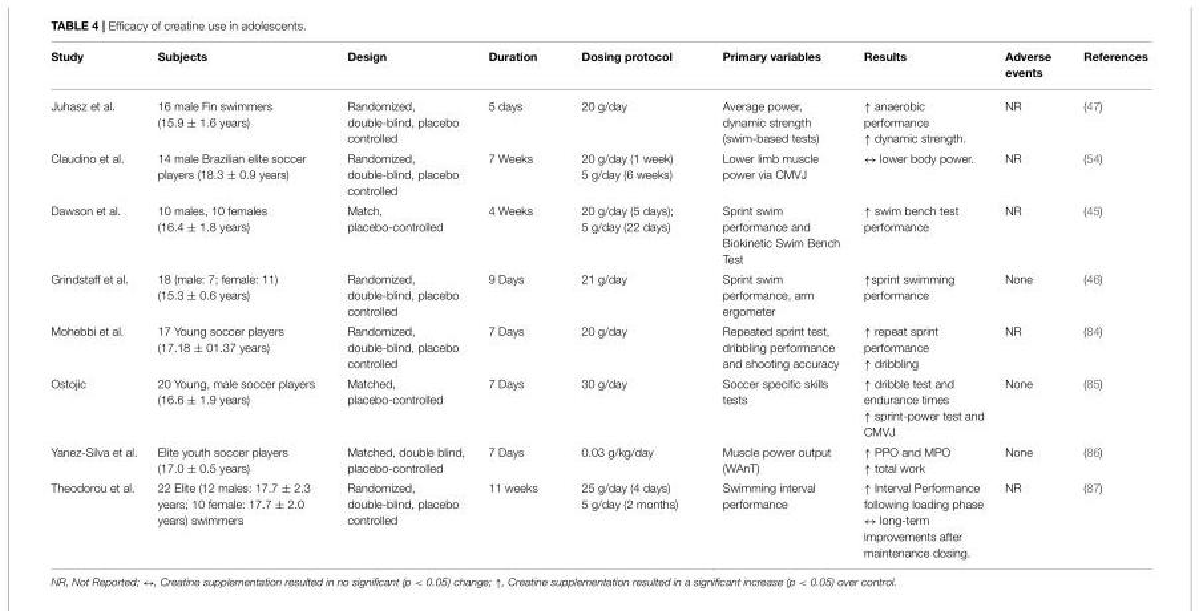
<table><thead><tr><td>Study</td><td>Subjects</td><td>Design</td><td>Duration</td><td>Dosing protocol</td><td>Primary variables</td><td>Results</td><td>Adverse events</td><td>References</td></tr></thead><tbody><tr><td>Juhasz et al.</td><td>16 male Fin swimmers (15.9 ± 1.6 years)</td><td>Randomized, double-blind, placebo controlled</td><td>5 days</td><td>20 g/day</td><td>Average power, dynamic strength (swim-based tests)</td><td>↑ anaerobic performance ↑ dynamic strength.</td><td>NR</td><td>(47)</td></tr><tr><td>Claudino et al.</td><td>14 male Brazilian elite soccer players (18.3 ± 0.9 years)</td><td>Randomized, double-blind, placebo controlled</td><td>7 Weeks</td><td>20 g/day (1 week) 5 g/day (6 weeks)</td><td>Lower limb muscle power via CMVJ</td><td>↔ lower body power.</td><td>NR</td><td>(54)</td></tr><tr><td>Dawson et al.</td><td>10 males, 10 females (16.4 ± 1.8 years)</td><td>Match, placebo-controlled</td><td>4 Weeks</td><td>20 g/day (5 days); 5 g/day (22 days)</td><td>Sprint swim performance and Biokinetic Swim Bench Test</td><td>↑ swim bench test performance</td><td>NR</td><td>(45)</td></tr><tr><td>Grindstaff et al.</td><td>18 (male: 7; female: 11) (15.3 ± 0.6 years)</td><td>Randomized, double-blind, placebo controlled</td><td>9 Days</td><td>21 g/day</td><td>Sprint swim performance, arm ergometer</td><td>↑sprint swimming performance</td><td>None</td><td>(46)</td></tr><tr><td>Mohebbi et al.</td><td>17 Young soccer players (17.18 ± 01.37 years)</td><td>Randomized, double-blind, placebo controlled</td><td>7 Days</td><td>20 g/day</td><td>Repeated sprint test, dribbling performance and shooting accuracy</td><td>↑ repeat sprint performance ↑ dribbling</td><td>NR</td><td>(84)</td></tr><tr><td>Ostojic</td><td>20 Young, male soccer players (16.6 ± 1.9 years)</td><td>Matched, placebo-controlled</td><td>7 Days</td><td>30 g/day</td><td>Soccer specific skills tests</td><td>↑ dribble test and endurance times ↑ sprint-power test and CMVJ</td><td>None</td><td>(85)</td></tr><tr><td>Yanez-Silva et al.</td><td>Elite youth soccer players (17.0 ± 0.5 years)</td><td>Matched, double blind, placebo-controlled</td><td>7 Days</td><td>0.03 g/kg/day</td><td>Muscle power output (WAnT)</td><td>↑ PPO and MPO ↑ total work</td><td>None</td><td>(86)</td></tr><tr><td>Theodorou et al.</td><td>22 Elite (12 males: 17.7 ± 2.3 years; 10 female: 17.7 ± 2.0 years) swimmers</td><td>Randomized, double-blind, placebo controlled</td><td>11 weeks</td><td>25 g/day (4 days) 5 g/day (2 months)</td><td>Swimming interval performance</td><td>↑ Interval Performance following loading phase ↔ long-term improvements after maintenance dosing.</td><td>NR</td><td>(87)</td></tr></tbody></table>